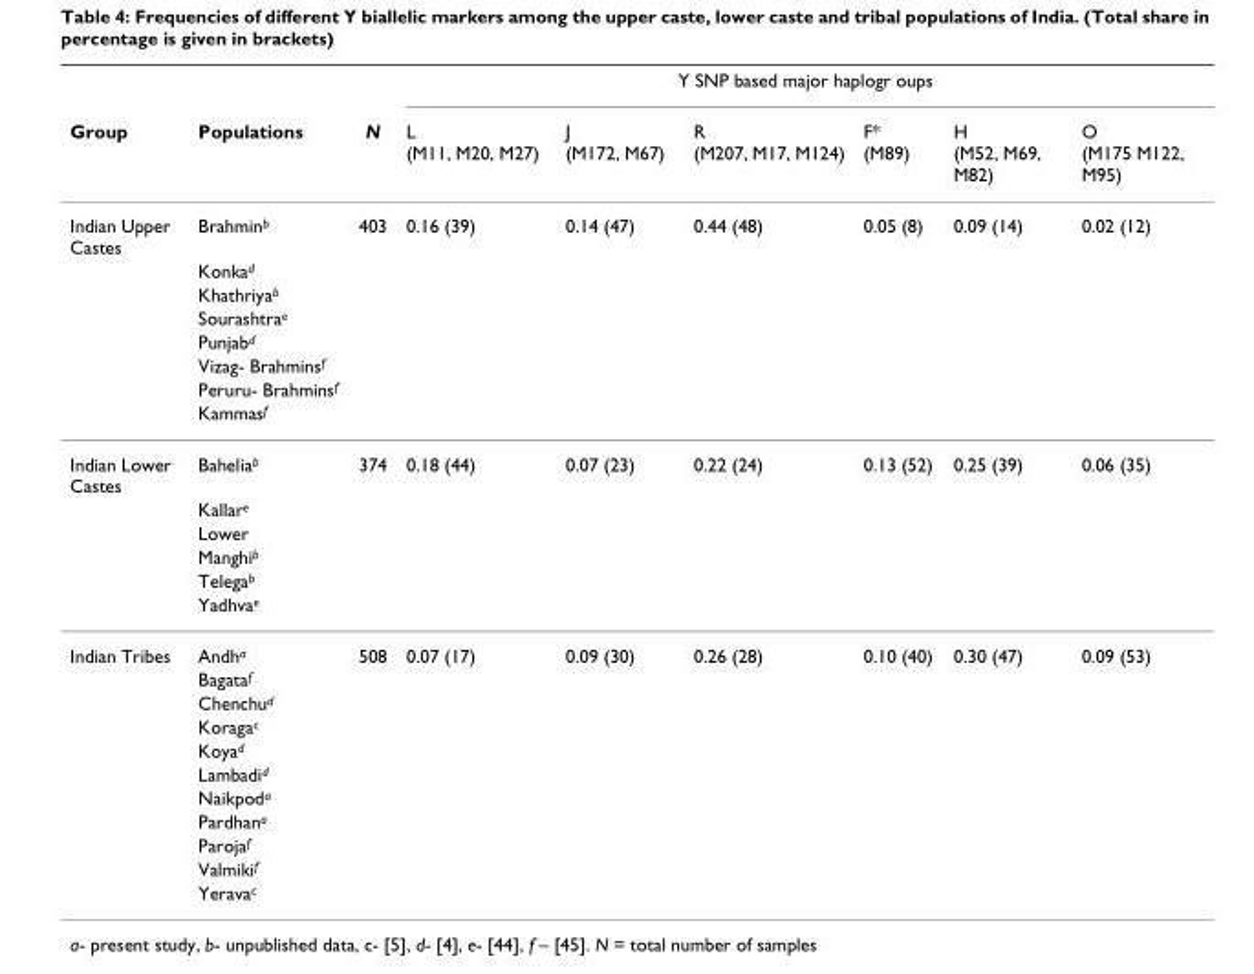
<table><thead><tr><td rowspan="2">Group</td><td rowspan="2">Populations</td><td rowspan="2">N</td><td colspan="6">Y SNP based major haplogr oups</td></tr><tr><td>L (M11, M20, M27)</td><td>J (M172, M67)</td><td>R (M207, M17, M124)</td><td>F* (M89)</td><td>H (M52, M69, M82)</td><td>O (M175 M122, M95)</td></tr></thead><tbody><tr><td rowspan="8">Indian Upper Castes</td><td>Brahmin<sup>b</sup></td><td>403</td><td>0.16 (39)</td><td>0.14 (47)</td><td>0.44 (48)</td><td>0.05 (8)</td><td>0.09 (14)</td><td>0.02 (12)</td></tr><tr><td>Konka<sup>d</sup></td><td></td><td></td><td></td><td></td><td></td><td></td><td></td></tr><tr><td>Khathriya<sup>b</sup></td><td></td><td></td><td></td><td></td><td></td><td></td><td></td></tr><tr><td>Sourashtra<sup>e</sup></td><td></td><td></td><td></td><td></td><td></td><td></td><td></td></tr><tr><td>Punjab<sup>d</sup></td><td></td><td></td><td></td><td></td><td></td><td></td><td></td></tr><tr><td>Vizag- Brahmins<sup>f</sup></td><td></td><td></td><td></td><td></td><td></td><td></td><td></td></tr><tr><td>Peruru- Brahmins<sup>f</sup></td><td></td><td></td><td></td><td></td><td></td><td></td><td></td></tr><tr><td>Kammas<sup>f</sup></td><td></td><td></td><td></td><td></td><td></td><td></td><td></td></tr><tr><td rowspan="6">Indian Lower Castes</td><td>Bahelia<sup>b</sup></td><td>374</td><td>0.18 (44)</td><td>0.07 (23)</td><td>0.22 (24)</td><td>0.13 (52)</td><td>0.25 (39)</td><td>0.06 (35)</td></tr><tr><td>Kallar<sup>e</sup></td><td></td><td></td><td></td><td></td><td></td><td></td><td></td></tr><tr><td>Lower</td><td></td><td></td><td></td><td></td><td></td><td></td><td></td></tr><tr><td>Manghi<sup>b</sup></td><td></td><td></td><td></td><td></td><td></td><td></td><td></td></tr><tr><td>Telega<sup>b</sup></td><td></td><td></td><td></td><td></td><td></td><td></td><td></td></tr><tr><td>Yadhva<sup>e</sup></td><td></td><td></td><td></td><td></td><td></td><td></td><td></td></tr><tr><td rowspan="11">Indian Tribes</td><td>Andh<sup>a</sup></td><td>508</td><td>0.07 (17)</td><td>0.09 (30)</td><td>0.26 (28)</td><td>0.10 (40)</td><td>0.30 (47)</td><td>0.09 (53)</td></tr><tr><td>Bagata<sup>f</sup></td><td></td><td></td><td></td><td></td><td></td><td></td><td></td></tr><tr><td>Chenchu<sup>d</sup></td><td></td><td></td><td></td><td></td><td></td><td></td><td></td></tr><tr><td>Koraga<sup>c</sup></td><td></td><td></td><td></td><td></td><td></td><td></td><td></td></tr><tr><td>Koya<sup>d</sup></td><td></td><td></td><td></td><td></td><td></td><td></td><td></td></tr><tr><td>Lambadi<sup>d</sup></td><td></td><td></td><td></td><td></td><td></td><td></td><td></td></tr><tr><td>Naikpod<sup>a</sup></td><td></td><td></td><td></td><td></td><td></td><td></td><td></td></tr><tr><td>Pardhan<sup>a</sup></td><td></td><td></td><td></td><td></td><td></td><td></td><td></td></tr><tr><td>Paroja<sup>f</sup></td><td></td><td></td><td></td><td></td><td></td><td></td><td></td></tr><tr><td>Valmiki<sup>f</sup></td><td></td><td></td><td></td><td></td><td></td><td></td><td></td></tr><tr><td>Yerava<sup>c</sup></td><td></td><td></td><td></td><td></td><td></td><td></td><td></td></tr></tbody></table>